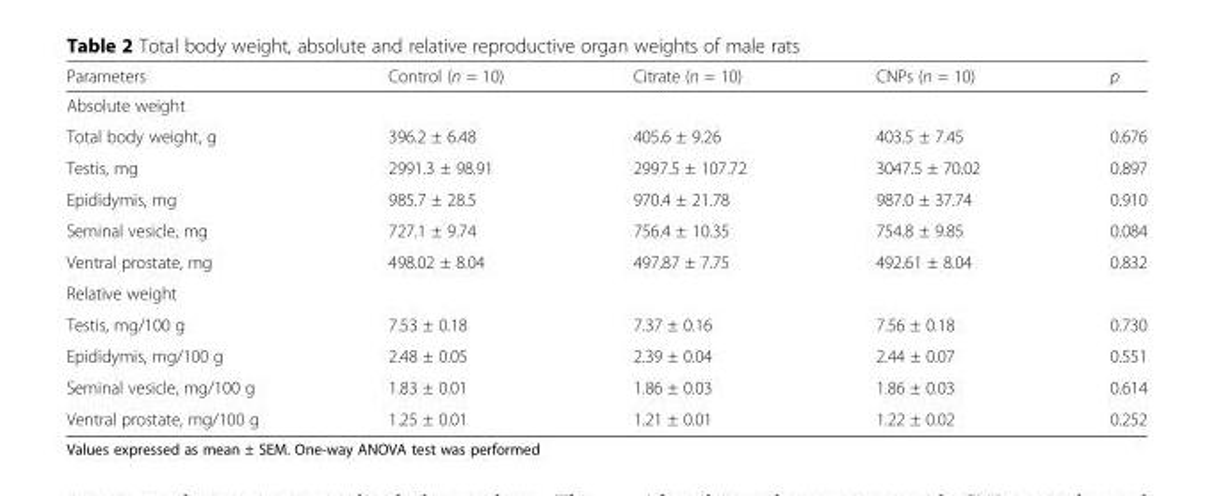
<table><thead><tr><td>Parameters</td><td>Control (n = 10)</td><td>Citrate (n = 10)</td><td>CNPs (n = 10)</td><td>p</td></tr></thead><tbody><tr><td colspan="5">Absolute weight</td></tr><tr><td>Total body weight, g</td><td>396.2 ± 6.48</td><td>405.6 ± 9.26</td><td>403.5 ± 7.45</td><td>0.676</td></tr><tr><td>Testis, mg</td><td>2991.3 ± 98.91</td><td>2997.5 ± 107.72</td><td>3047.5 ± 70.02</td><td>0.897</td></tr><tr><td>Epididymis, mg</td><td>985.7 ± 28.5</td><td>970.4 ± 21.78</td><td>987.0 ± 37.74</td><td>0.910</td></tr><tr><td>Seminal vesicle, mg</td><td>727.1 ± 9.74</td><td>756.4 ± 10.35</td><td>754.8 ± 9.85</td><td>0.084</td></tr><tr><td>Ventral prostate, mg</td><td>498.02 ± 8.04</td><td>497.87 ± 7.75</td><td>492.61 ± 8.04</td><td>0.832</td></tr><tr><td colspan="5">Relative weight</td></tr><tr><td>Testis, mg/100 g</td><td>7.53 ± 0.18</td><td>7.37 ± 0.16</td><td>7.56 ± 0.18</td><td>0.730</td></tr><tr><td>Epididymis, mg/100 g</td><td>2.48 ± 0.05</td><td>2.39 ± 0.04</td><td>2.44 ± 0.07</td><td>0.551</td></tr><tr><td>Seminal vesicle, mg/100 g</td><td>1.83 ± 0.01</td><td>1.86 ± 0.03</td><td>1.86 ± 0.03</td><td>0.614</td></tr><tr><td>Ventral prostate, mg/100 g</td><td>1.25 ± 0.01</td><td>1.21 ± 0.01</td><td>1.22 ± 0.02</td><td>0.252</td></tr></tbody></table>